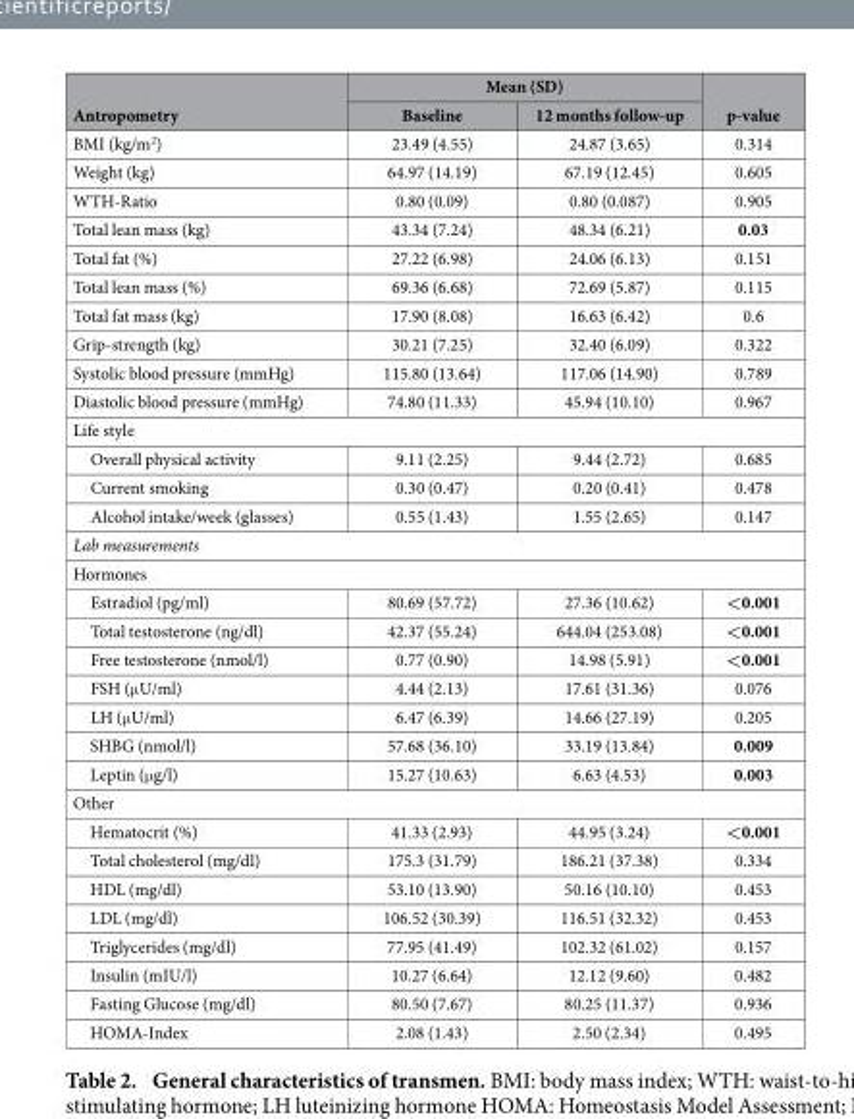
<table><thead><tr><td rowspan="2">Antropometry</td><td colspan="2">Mean (SD)</td><td rowspan="2">p-value</td></tr><tr><td>Baseline</td><td>12 months follow-up</td></tr></thead><tbody><tr><td>BMI (kg/m<sup>2</sup>)</td><td>23.49 (4.55)</td><td>24.87 (3.65)</td><td>0.314</td></tr><tr><td>Weight (kg)</td><td>64.97 (14.19)</td><td>67.19 (12.45)</td><td>0.605</td></tr><tr><td>WTH-Ratio</td><td>0.80 (0.09)</td><td>0.80 (0.087)</td><td>0.905</td></tr><tr><td>Total lean mass (kg)</td><td>43.34 (7.24)</td><td>48.34 (6.21)</td><td>0.03</td></tr><tr><td>Total fat (%)</td><td>27.22 (6.98)</td><td>24.06 (6.13)</td><td>0.151</td></tr><tr><td>Total lean mass (%)</td><td>69.36 (6.68)</td><td>72.69 (5.87)</td><td>0.115</td></tr><tr><td>Total fat mass (kg)</td><td>17.90 (8.08)</td><td>16.63 (6.42)</td><td>0.6</td></tr><tr><td>Grip-strength (kg)</td><td>30.21 (7.25)</td><td>32.40 (6.09)</td><td>0.322</td></tr><tr><td>Systolic blood pressure (mmHg)</td><td>115.80 (13.64)</td><td>117.06 (14.90)</td><td>0.789</td></tr><tr><td>Diastolic blood pressure (mmHg)</td><td>74.80 (11.33)</td><td>45.94 (10.10)</td><td>0.967</td></tr><tr><td colspan="4">Life style</td></tr><tr><td>Overall physical activity</td><td>9.11 (2.25)</td><td>9.44 (2.72)</td><td>0.685</td></tr><tr><td>Current smoking</td><td>0.30 (0.47)</td><td>0.20 (0.41)</td><td>0.478</td></tr><tr><td>Alcohol intake/week (glasses)</td><td>0.55 (1.43)</td><td>1.55 (2.65)</td><td>0.147</td></tr><tr><td colspan="4">Lab measurements</td></tr><tr><td colspan="4">Hormones</td></tr><tr><td>Estradiol (pg/ml)</td><td>80.69 (57.72)</td><td>27.36 (10.62)</td><td>&lt;0.001</td></tr><tr><td>Total testosterone (ng/dl)</td><td>42.37 (55.24)</td><td>644.04 (253.08)</td><td>&lt;0.001</td></tr><tr><td>Free testosterone (nmol/l)</td><td>0.77 (0.90)</td><td>14.98 (5.91)</td><td>&lt;0.001</td></tr><tr><td>FSH (μ U/ml)</td><td>4.44 (2.13)</td><td>17.61 (31.36)</td><td>0.076</td></tr><tr><td>LH (μ U/ml)</td><td>6.47 (6.39)</td><td>14.66 (27.19)</td><td>0.205</td></tr><tr><td>SHBG (nmol/l)</td><td>57.68 (36.10)</td><td>33.19 (13.84)</td><td>0.009</td></tr><tr><td>Leptin (μ g/l)</td><td>15.27 (10.63)</td><td>6.63 (4.53)</td><td>0.003</td></tr><tr><td colspan="4">Other</td></tr><tr><td>Hematocrit (%)</td><td>41.33 (2.93)</td><td>44.95 (3.24)</td><td>&lt;0.001</td></tr><tr><td>Total cholesterol (mg/dl)</td><td>175.3 (31.79)</td><td>186.21 (37.38)</td><td>0.334</td></tr><tr><td>HDL (mg/dl)</td><td>53.10 (13.90)</td><td>50.16 (10.10)</td><td>0.453</td></tr><tr><td>LDL (mg/dl)</td><td>106.52 (30.39)</td><td>116.51 (32.32)</td><td>0.453</td></tr><tr><td>Triglycerides (mg/dl)</td><td>77.95 (41.49)</td><td>102.32 (61.02)</td><td>0.157</td></tr><tr><td>Insulin (mIU/l)</td><td>10.27 (6.64)</td><td>12.12 (9.60)</td><td>0.482</td></tr><tr><td>Fasting Glucose (mg/dl)</td><td>80.50 (7.67)</td><td>80.25 (11.37)</td><td>0.936</td></tr><tr><td>HOMA-Index</td><td>2.08 (1.43)</td><td>2.50 (2.34)</td><td>0.495</td></tr></tbody></table>